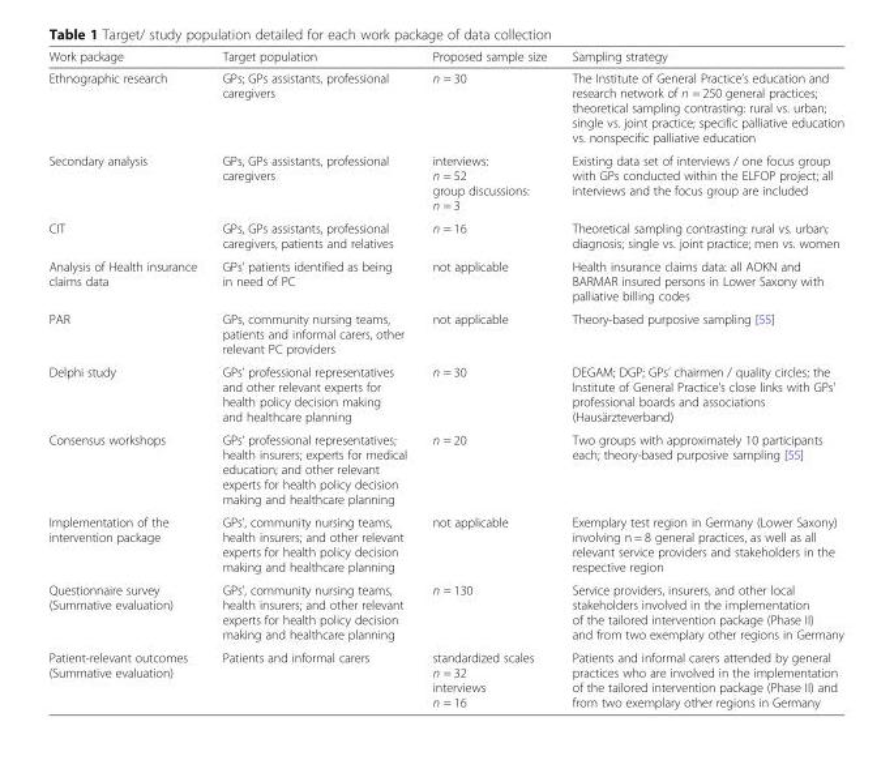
<table><thead><tr><td>Work package</td><td>Target population</td><td>Proposed sample size</td><td>Sampling strategy</td></tr></thead><tbody><tr><td>Ethnographic research</td><td>GPs; GPs assistants, professional caregivers</td><td>n = 30</td><td>The Institute of General Practice’s education and research network of n = 250 general practices; theoretical sampling contrasting: rural vs. urban; single vs. joint practice; specific palliative education vs. nonspecific palliative education</td></tr><tr><td>Secondary analysis</td><td>GPs, GPs assistants, professional caregivers</td><td>interviews: n = 52 group discussions: n = 3</td><td>Existing data set of interviews / one focus group with GPs conducted within the ELFOP project; all interviews and the focus group are included</td></tr><tr><td>CIT</td><td>GPs, GPs assistants, professional caregivers, patients and relatives</td><td>n = 16</td><td>Theoretical sampling contrasting: rural vs. urban; diagnosis; single vs. joint practice; men vs. women</td></tr><tr><td>Analysis of Health insurance claims data</td><td>GPs’ patients identified as being in need of PC</td><td>not applicable</td><td>Health insurance claims data: all AOKN and BARMAR insured persons in Lower Saxony with palliative billing codes</td></tr><tr><td>PAR</td><td>GPs, community nursing teams, patients and informal carers, other relevant PC providers</td><td>not applicable</td><td>Theory-based purposive sampling [55]</td></tr><tr><td>Delphi study</td><td>GPs’ professional representatives and other relevant experts for health policy decision making and healthcare planning</td><td>n = 30</td><td>DEGAM; DGP; GPs’ chairmen / quality circles; the Institute of General Practice’s close links with GPs’ professional boards and associations (Hausärzteverband)</td></tr><tr><td>Consensus workshops</td><td>GPs’ professional representatives; health insurers; experts for medical education; and other relevant experts for health policy decision making and healthcare planning</td><td>n = 20</td><td>Two groups with approximately 10 participants each; theory-based purposive sampling [55]</td></tr><tr><td>Implementation of the intervention package</td><td>GPs’, community nursing teams, health insurers; and other relevant experts for health policy decision making and healthcare planning</td><td>not applicable</td><td>Exemplary test region in Germany (Lower Saxony) involving n = 8 general practices, as well as all relevant service providers and stakeholders in the respective region</td></tr><tr><td>Questionnaire survey (Summative evaluation)</td><td>GPs’, community nursing teams, health insurers; and other relevant experts for health policy decision making and healthcare planning</td><td>n = 130</td><td>Service providers, insurers, and other local stakeholders involved in the implementation of the tailored intervention package (Phase II) and from two exemplary other regions in Germany</td></tr><tr><td>Patient-relevant outcomes (Summative evaluation)</td><td>Patients and informal carers</td><td>standardized scales n = 32 interviews n = 16</td><td>Patients and informal carers attended by general practices who are involved in the implementation of the tailored intervention package (Phase II) and from two exemplary other regions in Germany</td></tr></tbody></table>